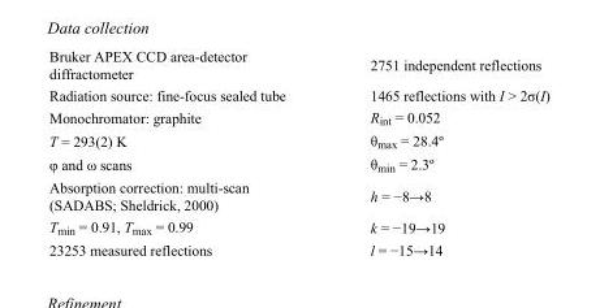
<table><tbody><tr><td>Bruker APEX CCD area-detector diffractometer</td><td>2751 independent reflections</td></tr><tr><td>Radiation source: fine-focus sealed tube</td><td>1465 reflections with I &gt; 2σ(I)</td></tr><tr><td>Monochromator: graphite</td><td>R<sub>int</sub> = 0.052</td></tr><tr><td>T = 293(2) K</td><td>θ<sub>max</sub> = 28.4º</td></tr><tr><td>φ and ω scans</td><td>θ<sub>min</sub> = 2.3º</td></tr><tr><td>Absorption correction: multi-scan (SADABS; Sheldrick, 2000)</td><td>h = −8→8</td></tr><tr><td>T<sub>min</sub> = 0.91, T<sub>max</sub> = 0.99</td><td>k = −19→19</td></tr><tr><td>23253 measured reflections</td><td>l = −15→14</td></tr></tbody></table>